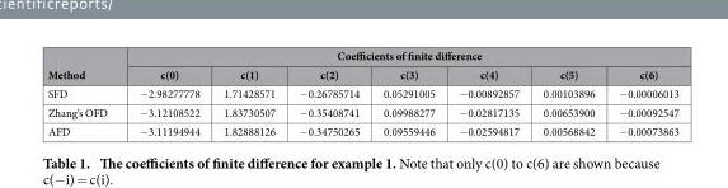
<table><thead><tr><td rowspan="2">Method</td><td colspan="7">Coefficients of finite difference</td></tr><tr><td>c(0)</td><td>c(1)</td><td>c(2)</td><td>c(3)</td><td>c(4)</td><td>c(5)</td><td>c(6)</td></tr></thead><tbody><tr><td>SFD</td><td>− 2.98277778</td><td>1.71428571</td><td>− 0.26785714</td><td>0.05291005</td><td>− 0.00892857</td><td>0.00103896</td><td>− 0.00006013</td></tr><tr><td>Zhang’s OFD</td><td>− 3.12108522</td><td>1.83730507</td><td>− 0.35408741</td><td>0.09988277</td><td>− 0.02817135</td><td>0.00653900</td><td>− 0.00092547</td></tr><tr><td>AFD</td><td>− 3.11194944</td><td>1.82888126</td><td>− 0.34750265</td><td>0.09559446</td><td>− 0.02594817</td><td>0.00568842</td><td>− 0.00073863</td></tr></tbody></table>